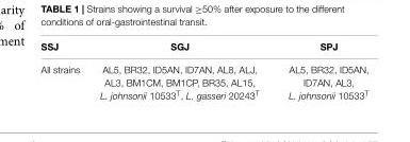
<table><thead><tr><td>SSJ</td><td>SGJ</td><td>SPJ</td></tr></thead><tbody><tr><td>All strains</td><td>AL5, BR32, ID5AN, ID7AN, AL8, ALJ, AL3, BM1CM, BM1CP, BR35, AL15, L. johnsonii 10533<sup>T</sup>, L. gasseri 20243<sup>T</sup></td><td>AL5, BR32, ID5AN, ID7AN, AL3, L. johnsonii 10533<sup>T</sup></td></tr></tbody></table>